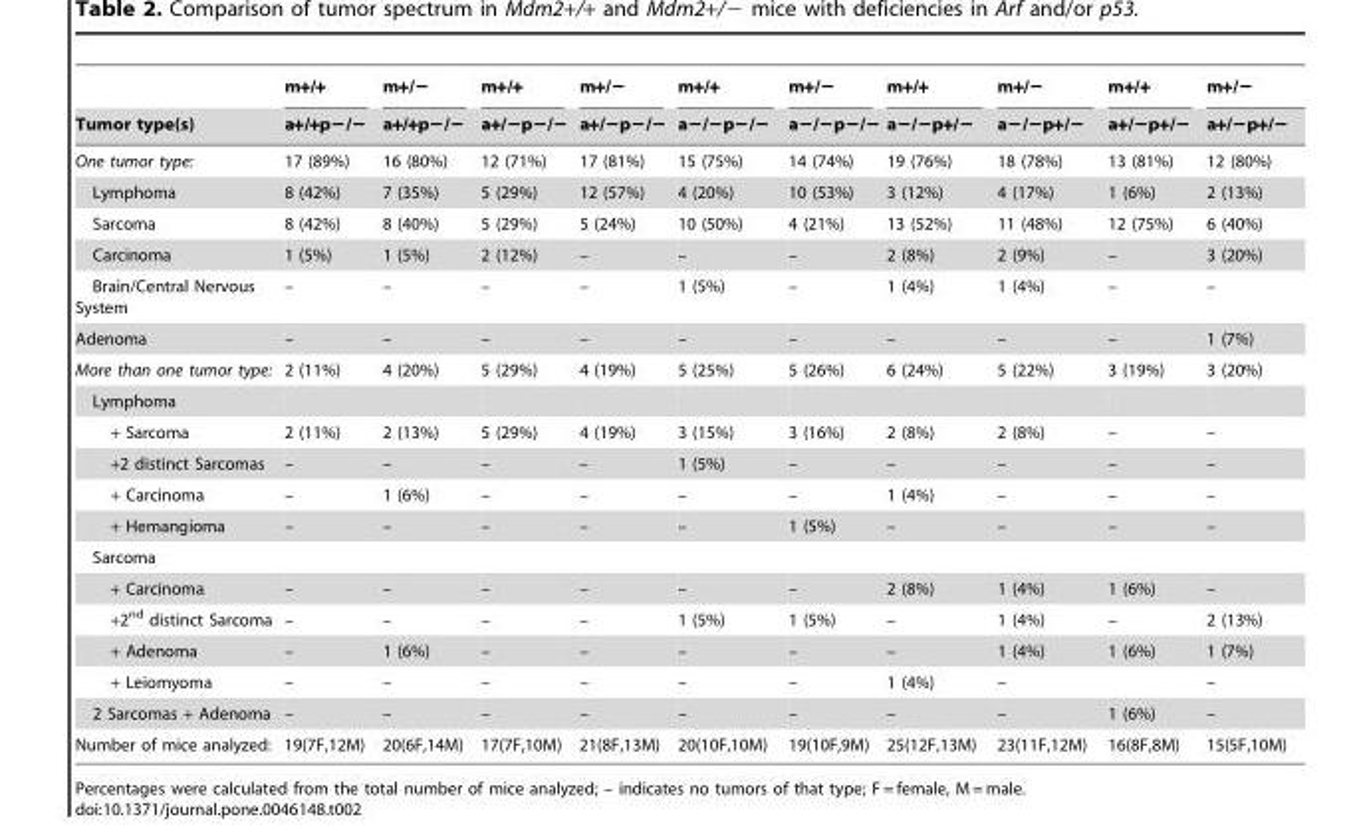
<table><thead><tr><td rowspan="2">Tumor type(s)</td><td rowspan="2">m+/+ a+/+p−/−</td><td rowspan="2">m+/− a+/+p−/−</td><td rowspan="2">m+/+ a+/−p−/−</td><td rowspan="2">m+/− a+/−p−/−</td><td rowspan="2">m+/+ a−/−p−/−</td><td rowspan="2">m+/− a−/−p−/−</td><td rowspan="2">m+/+ a−/−p+/−</td><td rowspan="2">m+/− a−/−p+/−</td><td rowspan="2">m+/+ a+/−p+/−</td><td rowspan="2">m+/− a+/−p+/−</td></tr><tr></tr></thead><tbody><tr><td>One tumor type:</td><td>17 (89%)</td><td>16 (80%)</td><td>12 (71%)</td><td>17 (81%)</td><td>15 (75%)</td><td>14 (74%)</td><td>19 (76%)</td><td>18 (78%)</td><td>13 (81%)</td><td>12 (80%)</td></tr><tr><td>Lymphoma</td><td>8 (42%)</td><td>7 (35%)</td><td>5 (29%)</td><td>12 (57%)</td><td>4 (20%)</td><td>10 (53%)</td><td>3 (12%)</td><td>4 (17%)</td><td>1 (6%)</td><td>2 (13%)</td></tr><tr><td>Sarcoma</td><td>8 (42%)</td><td>8 (40%)</td><td>5 (29%)</td><td>5 (24%)</td><td>10 (50%)</td><td>4 (21%)</td><td>13 (52%)</td><td>11 (48%)</td><td>12 (75%)</td><td>6 (40%)</td></tr><tr><td>Carcinoma</td><td>1 (5%)</td><td>1 (5%)</td><td>2 (12%)</td><td>–</td><td>–</td><td>–</td><td>2 (8%)</td><td>2 (9%)</td><td>–</td><td>3 (20%)</td></tr><tr><td>Brain/Central Nervous System</td><td>–</td><td>–</td><td>–</td><td>–</td><td>1 (5%)</td><td>–</td><td>1 (4%)</td><td>1 (4%)</td><td>–</td><td>–</td></tr><tr><td>Adenoma</td><td>–</td><td>–</td><td>–</td><td>–</td><td>–</td><td>–</td><td>–</td><td>–</td><td>–</td><td>1 (7%)</td></tr><tr><td>More than one tumor type:</td><td>2 (11%)</td><td>4 (20%)</td><td>5 (29%)</td><td>4 (19%)</td><td>5 (25%)</td><td>5 (26%)</td><td>6 (24%)</td><td>5 (22%)</td><td>3 (19%)</td><td>3 (20%)</td></tr><tr><td colspan="11">Lymphoma</td></tr><tr><td>+ Sarcoma</td><td>2 (11%)</td><td>2 (13%)</td><td>5 (29%)</td><td>4 (19%)</td><td>3 (15%)</td><td>3 (16%)</td><td>2 (8%)</td><td>2 (8%)</td><td>–</td><td>–</td></tr><tr><td>+2 distinct Sarcomas</td><td>–</td><td>–</td><td>–</td><td>–</td><td>1 (5%)</td><td>–</td><td>–</td><td>–</td><td>–</td><td>–</td></tr><tr><td>+ Carcinoma</td><td>–</td><td>1 (6%)</td><td>–</td><td>–</td><td>–</td><td>–</td><td>1 (4%)</td><td>–</td><td>–</td><td>–</td></tr><tr><td>+ Hemangioma</td><td>–</td><td>–</td><td>–</td><td>–</td><td>–</td><td>1 (5%)</td><td>–</td><td>–</td><td>–</td><td>–</td></tr><tr><td colspan="11">Sarcoma</td></tr><tr><td>+ Carcinoma</td><td>–</td><td>–</td><td>–</td><td>–</td><td>–</td><td>–</td><td>2 (8%)</td><td>1 (4%)</td><td>1 (6%)</td><td>–</td></tr><tr><td>+2<sup>nd</sup> distinct Sarcoma</td><td>–</td><td>–</td><td>–</td><td>–</td><td>1 (5%)</td><td>1 (5%)</td><td>–</td><td>1 (4%)</td><td>–</td><td>2 (13%)</td></tr><tr><td>+ Adenoma</td><td>–</td><td>1 (6%)</td><td>–</td><td>–</td><td>–</td><td>–</td><td>–</td><td>1 (4%)</td><td>1 (6%)</td><td>1 (7%)</td></tr><tr><td>+ Leiomyoma</td><td>–</td><td>–</td><td>–</td><td>–</td><td>–</td><td>–</td><td>1 (4%)</td><td>–</td><td></td><td>–</td></tr><tr><td>2 Sarcomas + Adenoma</td><td>–</td><td>–</td><td>–</td><td>–</td><td>–</td><td>–</td><td>–</td><td>–</td><td>1 (6%)</td><td>–</td></tr><tr><td>Number of mice analyzed:</td><td>19(7F,12M)</td><td>20(6F,14M)</td><td>17(7F,10M)</td><td>21(8F,13M)</td><td>20(10F,10M)</td><td>19(10F,9M)</td><td>25(12F,13M)</td><td>23(11F,12M)</td><td>16(8F,8M)</td><td>15(5F,10M)</td></tr></tbody></table>